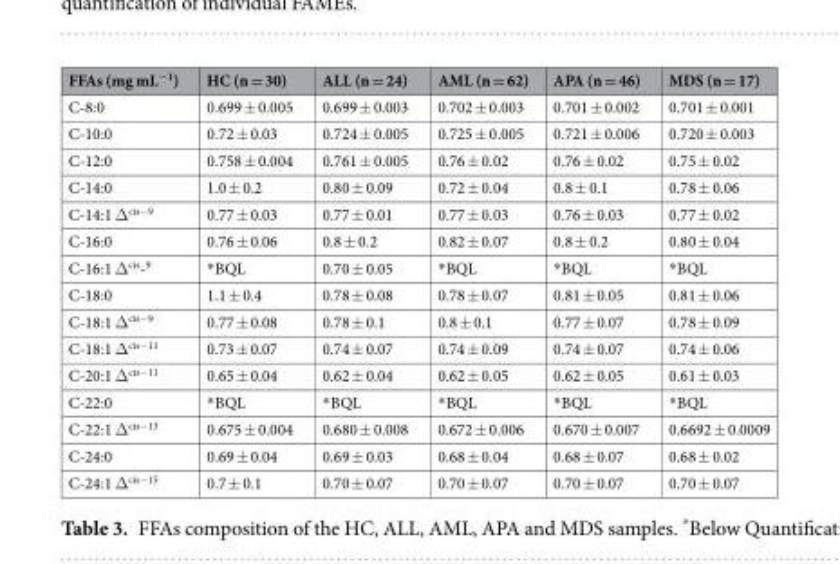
<table><thead><tr><td>FFAs (mg mL<sup>−1</sup>)</td><td>HC (n = 30)</td><td>ALL (n = 24)</td><td>AML (n = 62)</td><td>APA (n = 46)</td><td>MDS (n = 17)</td></tr></thead><tbody><tr><td>C-8:0</td><td>0.699 ± 0.005</td><td>0.699 ± 0.003</td><td>0.702 ± 0.003</td><td>0.701 ± 0.002</td><td>0.701 ± 0.001</td></tr><tr><td>C-10:0</td><td>0.72 ± 0.03</td><td>0.724 ± 0.005</td><td>0.725 ± 0.005</td><td>0.721 ± 0.006</td><td>0.720 ± 0.003</td></tr><tr><td>C-12:0</td><td>0.758 ± 0.004</td><td>0.761 ± 0.005</td><td>0.76 ± 0.02</td><td>0.76 ± 0.02</td><td>0.75 ± 0.02</td></tr><tr><td>C-14:0</td><td>1.0 ± 0.2</td><td>0.80 ± 0.09</td><td>0.72 ± 0.04</td><td>0.8 ± 0.1</td><td>0.78 ± 0.06</td></tr><tr><td>C-14:1 Δ<sup>cis−9</sup></td><td>0.77 ± 0.03</td><td>0.77 ± 0.01</td><td>0.77 ± 0.03</td><td>0.76 ± 0.03</td><td>0.77 ± 0.02</td></tr><tr><td>C-16:0</td><td>0.76 ± 0.06</td><td>0.8 ± 0.2</td><td>0.82 ± 0.07</td><td>0.8 ± 0.2</td><td>0.80 ± 0.04</td></tr><tr><td>C-16:1 Δ<sup>cis</sup>-<sup>9</sup></td><td>*BQL</td><td>0.70 ± 0.05</td><td>*BQL</td><td>*BQL</td><td>*BQL</td></tr><tr><td>C-18:0</td><td>1.1 ± 0.4</td><td>0.78 ± 0.08</td><td>0.78 ± 0.07</td><td>0.81 ± 0.05</td><td>0.81 ± 0.06</td></tr><tr><td>C-18:1 Δ<sup>cis−9</sup></td><td>0.77 ± 0.08</td><td>0.78 ± 0.1</td><td>0.8 ± 0.1</td><td>0.77 ± 0.07</td><td>0.78 ± 0.09</td></tr><tr><td>C-18:1 Δ<sup>cis−11</sup></td><td>0.73 ± 0.07</td><td>0.74 ± 0.07</td><td>0.74 ± 0.09</td><td>0.74 ± 0.07</td><td>0.74 ± 0.06</td></tr><tr><td>C-20:1 Δ<sup>cis−11</sup></td><td>0.65 ± 0.04</td><td>0.62 ± 0.04</td><td>0.62 ± 0.05</td><td>0.62 ± 0.05</td><td>0.61 ± 0.03</td></tr><tr><td>C-22:0</td><td>*BQL</td><td>*BQL</td><td>*BQL</td><td>*BQL</td><td>*BQL</td></tr><tr><td>C-22:1 Δ<sup>cis−13</sup></td><td>0.675 ± 0.004</td><td>0.680 ± 0.008</td><td>0.672 ± 0.006</td><td>0.670 ± 0.007</td><td>0.6692 ± 0.0009</td></tr><tr><td>C-24:0</td><td>0.69 ± 0.04</td><td>0.69 ± 0.03</td><td>0.68 ± 0.04</td><td>0.68 ± 0.07</td><td>0.68 ± 0.02</td></tr><tr><td>C-24:1 Δ<sup>cis−15</sup></td><td>0.7 ± 0.1</td><td>0.70 ± 0.07</td><td>0.70 ± 0.07</td><td>0.70 ± 0.07</td><td>0.70 ± 0.07</td></tr></tbody></table>